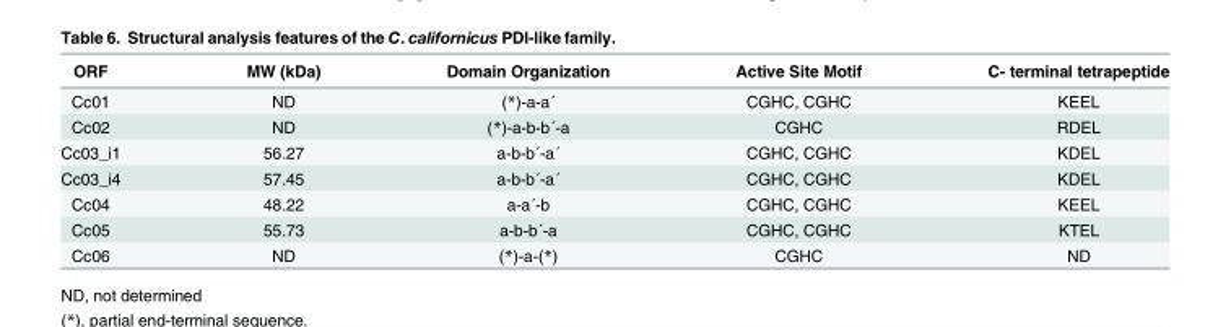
<table><thead><tr><td>ORF</td><td>MW (kDa)</td><td>Domain Organization</td><td>Active Site Motif</td><td>C- terminal tetrapeptide</td></tr></thead><tbody><tr><td>Cc01</td><td>ND</td><td>(*)-a-a´</td><td>CGHC, CGHC</td><td>KEEL</td></tr><tr><td>Cc02</td><td>ND</td><td>(*)-a-b-b´-a</td><td>CGHC</td><td>RDEL</td></tr><tr><td>Cc03_i1</td><td>56.27</td><td>a-b-b´-a´</td><td>CGHC, CGHC</td><td>KDEL</td></tr><tr><td>Cc03_i4</td><td>57.45</td><td>a-b-b´-a´</td><td>CGHC, CGHC</td><td>KDEL</td></tr><tr><td>Cc04</td><td>48.22</td><td>a-a´-b</td><td>CGHC, CGHC</td><td>KEEL</td></tr><tr><td>Cc05</td><td>55.73</td><td>a-b-b´-a</td><td>CGHC, CGHC</td><td>KTEL</td></tr><tr><td>Cc06</td><td>ND</td><td>(*)-a-(*)</td><td>CGHC</td><td>ND</td></tr></tbody></table>